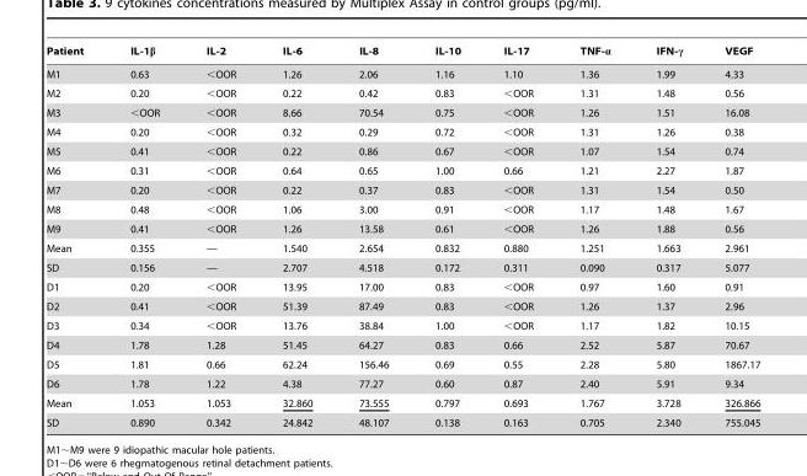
<table><thead><tr><td>Patient</td><td>IL-1β</td><td>IL-2</td><td>IL-6</td><td>IL-8</td><td>IL-10</td><td>IL-17</td><td>TNF-α</td><td>IFN-γ</td><td>VEGF</td></tr></thead><tbody><tr><td>M1</td><td>0.63</td><td>&lt;OOR</td><td>1.26</td><td>2.06</td><td>1.16</td><td>1.10</td><td>1.36</td><td>1.99</td><td>4.33</td></tr><tr><td>M2</td><td>0.20</td><td>&lt;OOR</td><td>0.22</td><td>0.42</td><td>0.83</td><td>&lt;OOR</td><td>1.31</td><td>1.48</td><td>0.56</td></tr><tr><td>M3</td><td>&lt;OOR</td><td>&lt;OOR</td><td>8.66</td><td>70.54</td><td>0.75</td><td>&lt;OOR</td><td>1.26</td><td>1.51</td><td>16.08</td></tr><tr><td>M4</td><td>0.20</td><td>&lt;OOR</td><td>0.32</td><td>0.29</td><td>0.72</td><td>&lt;OOR</td><td>1.31</td><td>1.26</td><td>0.38</td></tr><tr><td>M5</td><td>0.41</td><td>&lt;OOR</td><td>0.22</td><td>0.86</td><td>0.67</td><td>&lt;OOR</td><td>1.07</td><td>1.54</td><td>0.74</td></tr><tr><td>M6</td><td>0.31</td><td>&lt;OOR</td><td>0.64</td><td>0.65</td><td>1.00</td><td>0.66</td><td>1.21</td><td>2.27</td><td>1.87</td></tr><tr><td>M7</td><td>0.20</td><td>&lt;OOR</td><td>0.22</td><td>0.37</td><td>0.83</td><td>&lt;OOR</td><td>1.31</td><td>1.54</td><td>0.50</td></tr><tr><td>M8</td><td>0.48</td><td>&lt;OOR</td><td>1.06</td><td>3.00</td><td>0.91</td><td>&lt;OOR</td><td>1.17</td><td>1.48</td><td>1.67</td></tr><tr><td>M9</td><td>0.41</td><td>&lt;OOR</td><td>1.26</td><td>13.58</td><td>0.61</td><td>&lt;OOR</td><td>1.26</td><td>1.88</td><td>0.56</td></tr><tr><td>Mean</td><td>0.355</td><td>—</td><td>1.540</td><td>2.654</td><td>0.832</td><td>0.880</td><td>1.251</td><td>1.663</td><td>2.961</td></tr><tr><td>SD</td><td>0.156</td><td>—</td><td>2.707</td><td>4.518</td><td>0.172</td><td>0.311</td><td>0.090</td><td>0.317</td><td>5.077</td></tr><tr><td>D1</td><td>0.20</td><td>&lt;OOR</td><td>13.95</td><td>17.00</td><td>0.83</td><td>&lt;OOR</td><td>0.97</td><td>1.60</td><td>0.91</td></tr><tr><td>D2</td><td>0.41</td><td>&lt;OOR</td><td>51.39</td><td>87.49</td><td>0.83</td><td>&lt;OOR</td><td>1.26</td><td>1.37</td><td>2.96</td></tr><tr><td>D3</td><td>0.34</td><td>&lt;OOR</td><td>13.76</td><td>38.84</td><td>1.00</td><td>&lt;OOR</td><td>1.17</td><td>1.82</td><td>10.15</td></tr><tr><td>D4</td><td>1.78</td><td>1.28</td><td>51.45</td><td>64.27</td><td>0.83</td><td>0.66</td><td>2.52</td><td>5.87</td><td>70.67</td></tr><tr><td>D5</td><td>1.81</td><td>0.66</td><td>62.24</td><td>156.46</td><td>0.69</td><td>0.55</td><td>2.28</td><td>5.80</td><td>1867.17</td></tr><tr><td>D6</td><td>1.78</td><td>1.22</td><td>4.38</td><td>77.27</td><td>0.60</td><td>0.87</td><td>2.40</td><td>5.91</td><td>9.34</td></tr><tr><td>Mean</td><td>1.053</td><td>1.053</td><td>32.860</td><td>73.555</td><td>0.797</td><td>0.693</td><td>1.767</td><td>3.728</td><td>326.866</td></tr><tr><td>SD</td><td>0.890</td><td>0.342</td><td>24.842</td><td>48.107</td><td>0.138</td><td>0.163</td><td>0.705</td><td>2.340</td><td>755.045</td></tr></tbody></table>